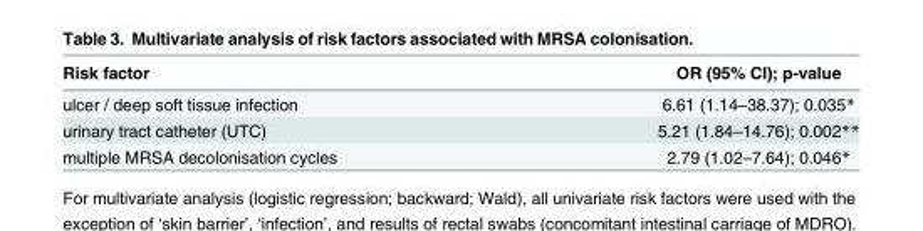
<table><thead><tr><td>Risk factor</td><td>OR (95% CI); p-value</td></tr></thead><tbody><tr><td>ulcer / deep soft tissue infection</td><td>6.61 (1.14–38.37); 0.035*</td></tr><tr><td>urinary tract catheter (UTC)</td><td>5.21 (1.84–14.76); 0.002**</td></tr><tr><td>multiple MRSA decolonisation cycles</td><td>2.79 (1.02–7.64); 0.046*</td></tr></tbody></table>